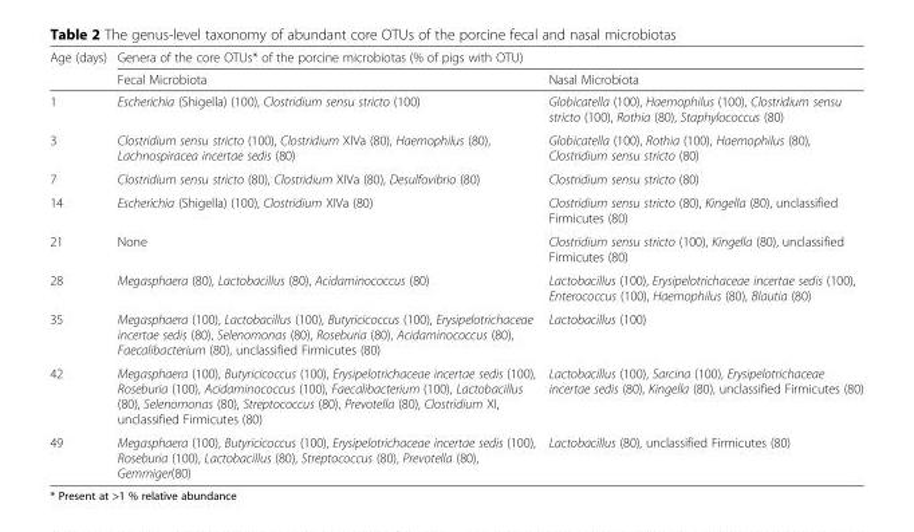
<table><thead><tr><td rowspan="2">Age (days)</td><td colspan="2">Genera of the core OTUs* of the porcine microbiotas (% of pigs with OTU)</td></tr><tr><td>Fecal Microbiota</td><td>Nasal Microbiota</td></tr></thead><tbody><tr><td>1</td><td>Escherichia (Shigella) (100), Clostridium sensu stricto (100)</td><td>Globicatella (100), Haemophilus (100), Clostridium sensu stricto (100), Rothia (80), Staphylococcus (80)</td></tr><tr><td>3</td><td>Clostridium sensu stricto (100), Clostridium XIVa (80), Haemophilus (80), Lachnospiracea incertae sedis (80)</td><td>Globicatella (100), Rothia (100), Haemophilus (80), Clostridium sensu stricto (80)</td></tr><tr><td>7</td><td>Clostridium sensu stricto (80), Clostridium XIVa (80), Desulfovibrio (80)</td><td>Clostridium sensu stricto (80)</td></tr><tr><td>14</td><td>Escherichia (Shigella) (100), Clostridium XIVa (80)</td><td>Clostridium sensu stricto (80), Kingella (80), unclassified Firmicutes (80)</td></tr><tr><td>21</td><td>None</td><td>Clostridium sensu stricto (100), Kingella (80), unclassified Firmicutes (80)</td></tr><tr><td>28</td><td>Megasphaera (80), Lactobacillus (80), Acidaminococcus (80)</td><td>Lactobacillus (100), Erysipelotrichaceae incertae sedis (100), Enterococcus (100), Haemophilus (80), Blautia (80)</td></tr><tr><td>35</td><td>Megasphaera (100), Lactobacillus (100), Butyricicoccus (100), Erysipelotrichaceae incertae sedis (80), Selenomonas (80), Roseburia (80), Acidaminococcus (80), Faecalibacterium (80), unclassified Firmicutes (80)</td><td>Lactobacillus (100)</td></tr><tr><td>42</td><td>Megasphaera (100), Butyricicoccus (100), Erysipelotrichaceae incertae sedis (100), Roseburia (100), Acidaminococcus (100), Faecalibacterium (100), Lactobacillus (80), Selenomonas (80), Streptococcus (80), Prevotella (80), Clostridium XI, unclassified Firmicutes (80)</td><td>Lactobacillus (100), Sarcina (100), Erysipelotrichaceae incertae sedis (80), Kingella (80), unclassified Firmicutes (80)</td></tr><tr><td>49</td><td>Megasphaera (100), Butyricicoccus (100), Erysipelotrichaceae incertae sedis (100), Roseburia (100), Lactobacillus (80), Streptococcus (80), Prevotella (80), Gemmiger(80)</td><td>Lactobacillus (80), unclassified Firmicutes (80)</td></tr></tbody></table>